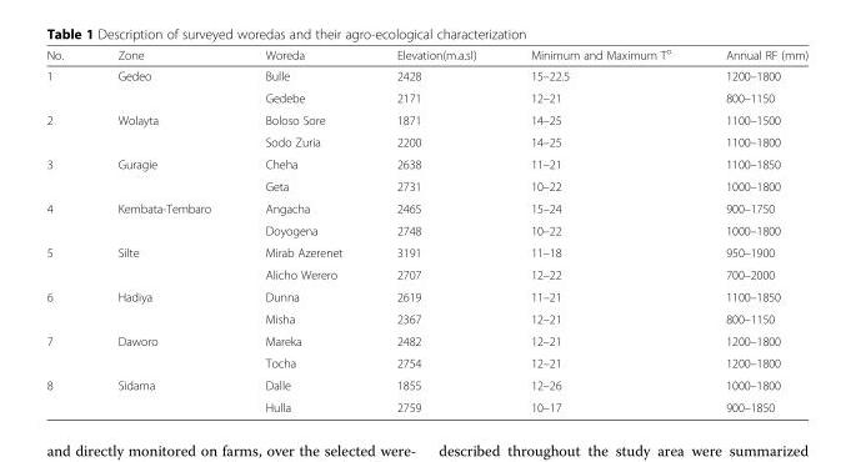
<table><thead><tr><td>No.</td><td>Zone</td><td>Woreda</td><td>Elevation(m.a.sl)</td><td>Minimum and Maximum T<sup>o</sup></td><td>Annual RF (mm)</td></tr></thead><tbody><tr><td rowspan="2">1</td><td rowspan="2">Gedeo</td><td>Bulle</td><td>2428</td><td>15–22.5</td><td>1200–1800</td></tr><tr><td>Gedebe</td><td>2171</td><td>12–21</td><td>800–1150</td></tr><tr><td rowspan="2">2</td><td rowspan="2">Wolayta</td><td>Boloso Sore</td><td>1871</td><td>14–25</td><td>1100–1500</td></tr><tr><td>Sodo Zuria</td><td>2200</td><td>14–25</td><td>1100–1800</td></tr><tr><td rowspan="2">3</td><td rowspan="2">Guragie</td><td>Cheha</td><td>2638</td><td>11–21</td><td>1100–1850</td></tr><tr><td>Geta</td><td>2731</td><td>10–22</td><td>1000–1800</td></tr><tr><td rowspan="2">4</td><td rowspan="2">Kembata-Tembaro</td><td>Angacha</td><td>2465</td><td>15–24</td><td>900–1750</td></tr><tr><td>Doyogena</td><td>2748</td><td>10–22</td><td>1000–1800</td></tr><tr><td rowspan="2">5</td><td rowspan="2">Silte</td><td>Mirab Azerenet</td><td>3191</td><td>11–18</td><td>950–1900</td></tr><tr><td>Alicho Werero</td><td>2707</td><td>12–22</td><td>700–2000</td></tr><tr><td rowspan="2">6</td><td rowspan="2">Hadiya</td><td>Dunna</td><td>2619</td><td>11–21</td><td>1100–1850</td></tr><tr><td>Misha</td><td>2367</td><td>12–21</td><td>800–1150</td></tr><tr><td rowspan="2">7</td><td rowspan="2">Daworo</td><td>Mareka</td><td>2482</td><td>12–21</td><td>1200–1800</td></tr><tr><td>Tocha</td><td>2754</td><td>12–21</td><td>1200–1800</td></tr><tr><td rowspan="2">8</td><td rowspan="2">Sidama</td><td>Dalle</td><td>1855</td><td>12–26</td><td>1000–1800</td></tr><tr><td>Hulla</td><td>2759</td><td>10–17</td><td>900–1850</td></tr></tbody></table>